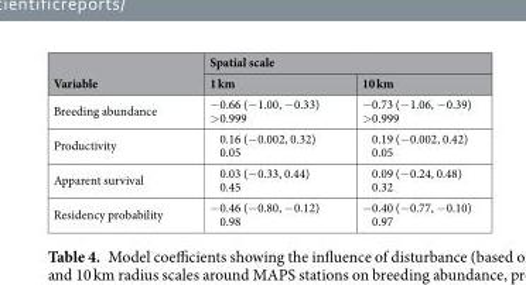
<table><thead><tr><td rowspan="2">Variable</td><td colspan="2">Spatial scale</td></tr><tr><td>1 km</td><td>10 km</td></tr></thead><tbody><tr><td>Breeding abundance</td><td>−0.66 (−1.00, −0.33) &gt;0.999</td><td>−0.73 (−1.06, −0.39) &gt;0.999</td></tr><tr><td>Productivity</td><td>0.16 (−0.002, 0.32) 0.05</td><td>0.19 (−0.002, 0.42) 0.05</td></tr><tr><td>Apparent survival</td><td>0.03 (−0.33, 0.44) 0.45</td><td>0.09 (−0.24, 0.48) 0.32</td></tr><tr><td>Residency probability</td><td>−0.46 (−0.80, −0.12) 0.98</td><td>−0.40 (−0.77, −0.10) 0.97</td></tr></tbody></table>